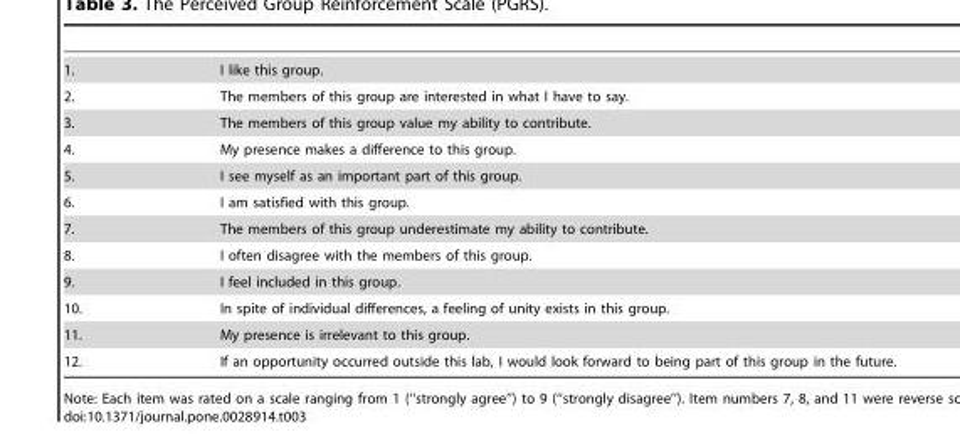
<table><tbody><tr><td>1.</td><td>I like this group.</td></tr><tr><td>2.</td><td>The members of this group are interested in what I have to say.</td></tr><tr><td>3.</td><td>The members of this group value my ability to contribute.</td></tr><tr><td>4.</td><td>My presence makes a difference to this group.</td></tr><tr><td>5.</td><td>I see myself as an important part of this group.</td></tr><tr><td>6.</td><td>I am satisfied with this group.</td></tr><tr><td>7.</td><td>The members of this group underestimate my ability to contribute.</td></tr><tr><td>8.</td><td>I often disagree with the members of this group.</td></tr><tr><td>9.</td><td>I feel included in this group.</td></tr><tr><td>10.</td><td>In spite of individual differences, a feeling of unity exists in this group.</td></tr><tr><td>11.</td><td>My presence is irrelevant to this group.</td></tr><tr><td>12.</td><td>If an opportunity occurred outside this lab, I would look forward to being part of this group in the future.</td></tr></tbody></table>